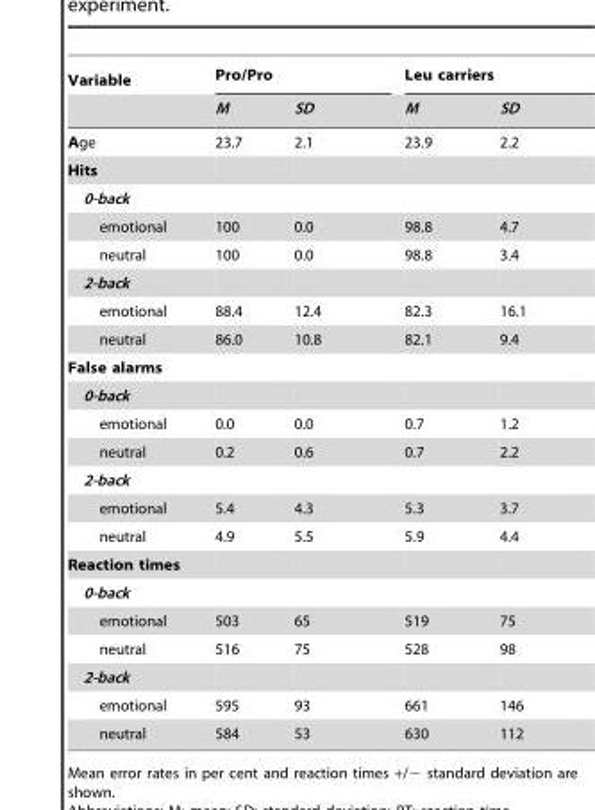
<table><thead><tr><td rowspan="2">Variable</td><td colspan="2">Pro/Pro</td><td colspan="2">Leu carriers</td></tr><tr><td>M</td><td>SD</td><td>M</td><td>SD</td></tr></thead><tbody><tr><td>Age</td><td>23.7</td><td>2.1</td><td>23.9</td><td>2.2</td></tr><tr><td colspan="5">Hits</td></tr><tr><td colspan="5">0-back</td></tr><tr><td>emotional</td><td>100</td><td>0.0</td><td>98.8</td><td>4.7</td></tr><tr><td>neutral</td><td>100</td><td>0.0</td><td>98.8</td><td>3.4</td></tr><tr><td colspan="5">2-back</td></tr><tr><td>emotional</td><td>88.4</td><td>12.4</td><td>82.3</td><td>16.1</td></tr><tr><td>neutral</td><td>86.0</td><td>10.8</td><td>82.1</td><td>9.4</td></tr><tr><td colspan="5">False alarms</td></tr><tr><td colspan="5">0-back</td></tr><tr><td>emotional</td><td>0.0</td><td>0.0</td><td>0.7</td><td>1.2</td></tr><tr><td>neutral</td><td>0.2</td><td>0.6</td><td>0.7</td><td>2.2</td></tr><tr><td colspan="5">2-back</td></tr><tr><td>emotional</td><td>5.4</td><td>4.3</td><td>5.3</td><td>3.7</td></tr><tr><td>neutral</td><td>4.9</td><td>5.5</td><td>5.9</td><td>4.4</td></tr><tr><td colspan="5">Reaction times</td></tr><tr><td colspan="5">0-back</td></tr><tr><td>emotional</td><td>503</td><td>65</td><td>519</td><td>75</td></tr><tr><td>neutral</td><td>516</td><td>75</td><td>528</td><td>98</td></tr><tr><td colspan="5">2-back</td></tr><tr><td>emotional</td><td>595</td><td>93</td><td>661</td><td>146</td></tr><tr><td>neutral</td><td>584</td><td>53</td><td>630</td><td>112</td></tr></tbody></table>